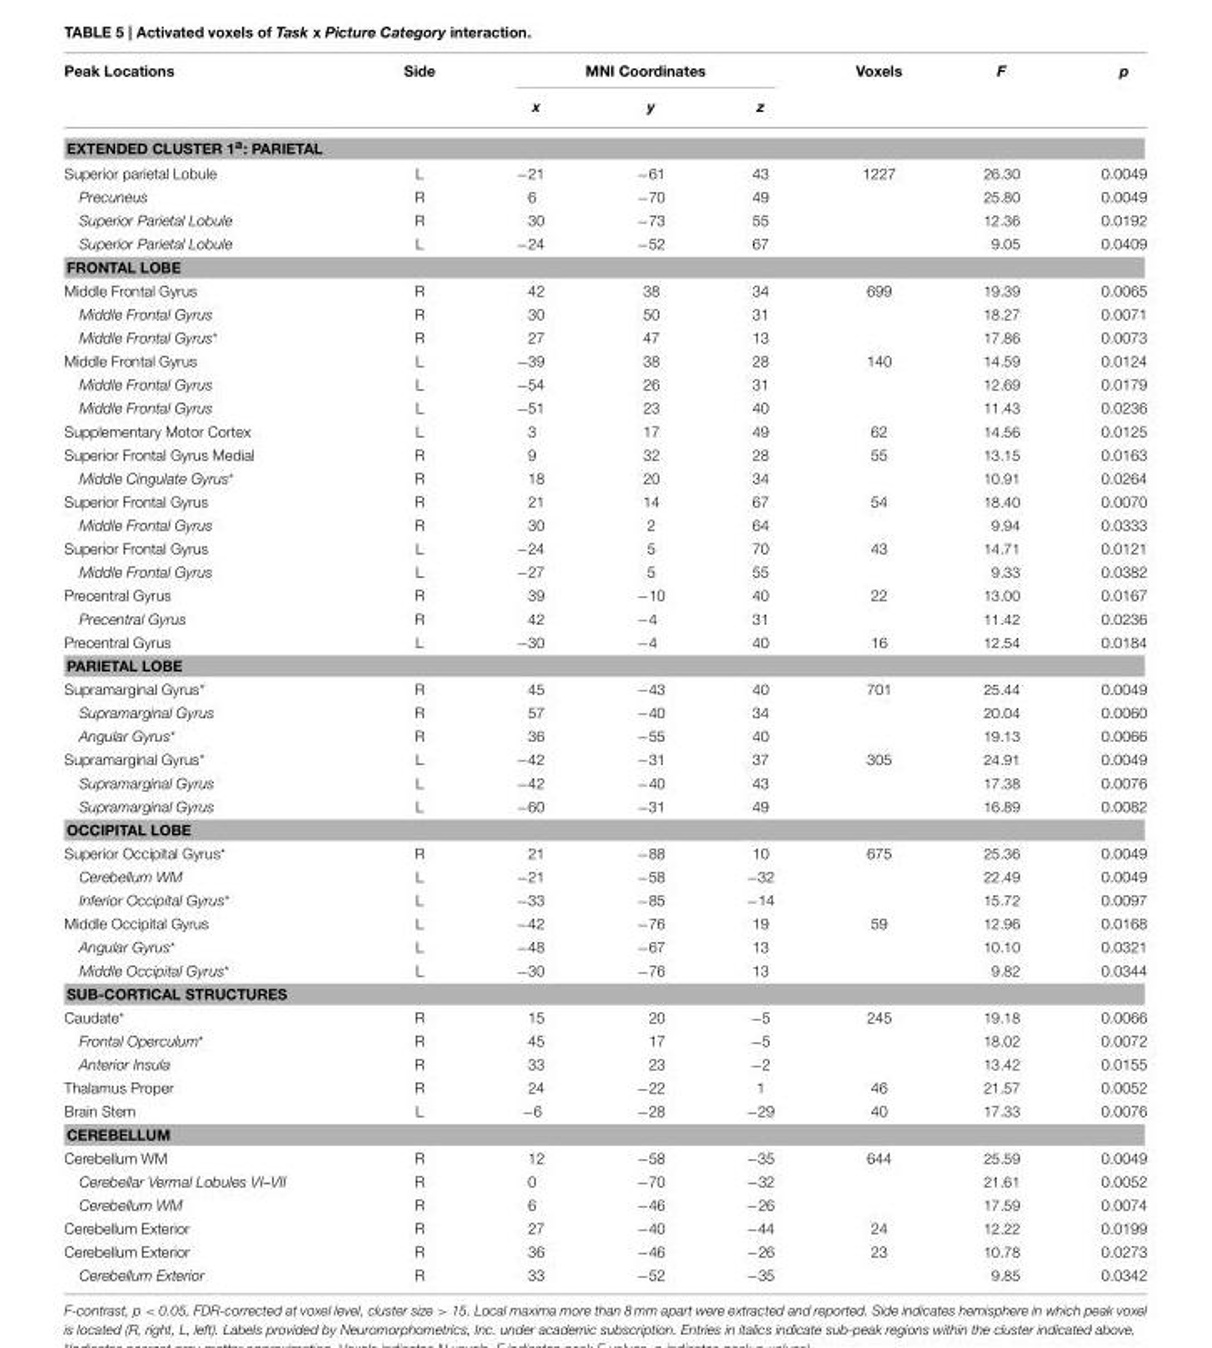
<table><thead><tr><td rowspan="2">Peak Locations</td><td rowspan="2">Side</td><td colspan="3">MNI Coordinates</td><td rowspan="2">Voxels</td><td rowspan="2">F</td><td rowspan="2">p</td></tr><tr><td>x</td><td>y</td><td>z</td></tr></thead><tbody><tr><td colspan="8">EXTENDED CLUSTER 1<sup>a</sup>: PARIETAL</td></tr><tr><td>Superior parietal Lobule</td><td>L</td><td>−21</td><td>−61</td><td>43</td><td>1227</td><td>26.30</td><td>0.0049</td></tr><tr><td>Precuneus</td><td>R</td><td>6</td><td>−70</td><td>49</td><td></td><td>25.80</td><td>0.0049</td></tr><tr><td>Superior Parietal Lobule</td><td>R</td><td>30</td><td>−73</td><td>55</td><td></td><td>12.36</td><td>0.0192</td></tr><tr><td>Superior Parietal Lobule</td><td>L</td><td>−24</td><td>−52</td><td>67</td><td></td><td>9.05</td><td>0.0409</td></tr><tr><td colspan="8">FRONTAL LOBE</td></tr><tr><td>Middle Frontal Gyrus</td><td>R</td><td>42</td><td>38</td><td>34</td><td>699</td><td>19.39</td><td>0.0065</td></tr><tr><td>Middle Frontal Gyrus</td><td>R</td><td>30</td><td>50</td><td>31</td><td></td><td>18.27</td><td>0.0071</td></tr><tr><td>Middle Frontal Gyrus*</td><td>R</td><td>27</td><td>47</td><td>13</td><td></td><td>17.86</td><td>0.0073</td></tr><tr><td>Middle Frontal Gyrus</td><td>L</td><td>−39</td><td>38</td><td>28</td><td>140</td><td>14.59</td><td>0.0124</td></tr><tr><td>Middle Frontal Gyrus</td><td>L</td><td>−54</td><td>26</td><td>31</td><td></td><td>12.69</td><td>0.0179</td></tr><tr><td>Middle Frontal Gyrus</td><td>L</td><td>−51</td><td>23</td><td>40</td><td></td><td>11.43</td><td>0.0236</td></tr><tr><td>Supplementary Motor Cortex</td><td>L</td><td>3</td><td>17</td><td>49</td><td>62</td><td>14.56</td><td>0.0125</td></tr><tr><td>Superior Frontal Gyrus Medial</td><td>R</td><td>9</td><td>32</td><td>28</td><td>55</td><td>13.15</td><td>0.0163</td></tr><tr><td>Middle Cingulate Gyrus*</td><td>R</td><td>18</td><td>20</td><td>34</td><td></td><td>10.91</td><td>0.0264</td></tr><tr><td>Superior Frontal Gyrus</td><td>R</td><td>21</td><td>14</td><td>67</td><td>54</td><td>18.40</td><td>0.0070</td></tr><tr><td>Middle Frontal Gyrus</td><td>R</td><td>30</td><td>2</td><td>64</td><td></td><td>9.94</td><td>0.0333</td></tr><tr><td>Superior Frontal Gyrus</td><td>L</td><td>−24</td><td>5</td><td>70</td><td>43</td><td>14.71</td><td>0.0121</td></tr><tr><td>Middle Frontal Gyrus</td><td>L</td><td>−27</td><td>5</td><td>55</td><td></td><td>9.33</td><td>0.0382</td></tr><tr><td>Precentral Gyrus</td><td>R</td><td>39</td><td>−10</td><td>40</td><td>22</td><td>13.00</td><td>0.0167</td></tr><tr><td>Precentral Gyrus</td><td>R</td><td>42</td><td>−4</td><td>31</td><td></td><td>11.42</td><td>0.0236</td></tr><tr><td>Precentral Gyrus</td><td>L</td><td>−30</td><td>−4</td><td>40</td><td>16</td><td>12.54</td><td>0.0184</td></tr><tr><td colspan="8">PARIETAL LOBE</td></tr><tr><td>Supramarginal Gyrus*</td><td>R</td><td>45</td><td>−43</td><td>40</td><td>701</td><td>25.44</td><td>0.0049</td></tr><tr><td>Supramarginal Gyrus</td><td>R</td><td>57</td><td>−40</td><td>34</td><td></td><td>20.04</td><td>0.0060</td></tr><tr><td>Angular Gyrus*</td><td>R</td><td>36</td><td>−55</td><td>40</td><td></td><td>19.13</td><td>0.0066</td></tr><tr><td>Supramarginal Gyrus*</td><td>L</td><td>−42</td><td>−31</td><td>37</td><td>305</td><td>24.91</td><td>0.0049</td></tr><tr><td>Supramarginal Gyrus</td><td>L</td><td>−42</td><td>−40</td><td>43</td><td></td><td>17.38</td><td>0.0076</td></tr><tr><td>Supramarginal Gyrus</td><td>L</td><td>−60</td><td>−31</td><td>49</td><td></td><td>16.89</td><td>0.0082</td></tr><tr><td colspan="8">OCCIPITAL LOBE</td></tr><tr><td>Superior Occipital Gyrus*</td><td>R</td><td>21</td><td>−88</td><td>10</td><td>675</td><td>25.36</td><td>0.0049</td></tr><tr><td>Cerebellum WM</td><td>L</td><td>−21</td><td>−58</td><td>−32</td><td></td><td>22.49</td><td>0.0049</td></tr><tr><td>Inferior Occipital Gyrus*</td><td>L</td><td>−33</td><td>−85</td><td>−14</td><td></td><td>15.72</td><td>0.0097</td></tr><tr><td>Middle Occipital Gyrus</td><td>L</td><td>−42</td><td>−76</td><td>19</td><td>59</td><td>12.96</td><td>0.0168</td></tr><tr><td>Angular Gyrus*</td><td>L</td><td>−48</td><td>−67</td><td>13</td><td></td><td>10.10</td><td>0.0321</td></tr><tr><td>Middle Occipital Gyrus*</td><td>L</td><td>−30</td><td>−76</td><td>13</td><td></td><td>9.82</td><td>0.0344</td></tr><tr><td colspan="8">SUB-CORTICAL STRUCTURES</td></tr><tr><td>Caudate*</td><td>R</td><td>15</td><td>20</td><td>−5</td><td>245</td><td>19.18</td><td>0.0066</td></tr><tr><td>Frontal Operculum*</td><td>R</td><td>45</td><td>17</td><td>−5</td><td></td><td>18.02</td><td>0.0072</td></tr><tr><td>Anterior Insula</td><td>R</td><td>33</td><td>23</td><td>−2</td><td></td><td>13.42</td><td>0.0155</td></tr><tr><td>Thalamus Proper</td><td>R</td><td>24</td><td>−22</td><td>1</td><td>46</td><td>21.57</td><td>0.0052</td></tr><tr><td>Brain Stem</td><td>L</td><td>−6</td><td>−28</td><td>−29</td><td>40</td><td>17.33</td><td>0.0076</td></tr><tr><td colspan="8">CEREBELLUM</td></tr><tr><td>Cerebellum WM</td><td>R</td><td>12</td><td>−58</td><td>−35</td><td>644</td><td>25.59</td><td>0.0049</td></tr><tr><td>Cerebellar Vermal Lobules VI–VII</td><td>R</td><td>0</td><td>−70</td><td>−32</td><td></td><td>21.61</td><td>0.0052</td></tr><tr><td>Cerebellum WM</td><td>R</td><td>6</td><td>−46</td><td>−26</td><td></td><td>17.59</td><td>0.0074</td></tr><tr><td>Cerebellum Exterior</td><td>R</td><td>27</td><td>−40</td><td>−44</td><td>24</td><td>12.22</td><td>0.0199</td></tr><tr><td>Cerebellum Exterior</td><td>R</td><td>36</td><td>−46</td><td>−26</td><td>23</td><td>10.78</td><td>0.0273</td></tr><tr><td>Cerebellum Exterior</td><td>R</td><td>33</td><td>−52</td><td>−35</td><td></td><td>9.85</td><td>0.0342</td></tr></tbody></table>